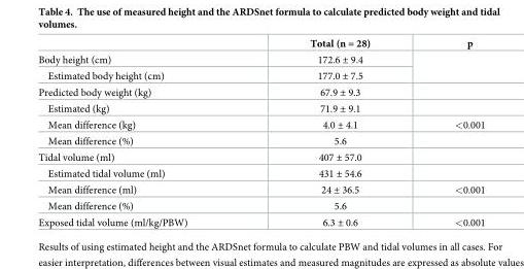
<table><thead><tr><td></td><td>Total (n = 28)</td><td>p</td></tr></thead><tbody><tr><td>Body height (cm)</td><td>172.6 ± 9.4</td><td rowspan="2"></td></tr><tr><td>Estimated body height (cm)</td><td>177.0 ± 7.5</td></tr><tr><td>Predicted body weight (kg)</td><td>67.9 ± 9.3</td><td></td></tr><tr><td>Estimated (kg)</td><td>71.9 ± 9.1</td><td></td></tr><tr><td>Mean difference (kg)</td><td>4.0 ± 4.1</td><td>&lt;0.001</td></tr><tr><td>Mean difference (%)</td><td>5.6</td><td></td></tr><tr><td>Tidal volume (ml)</td><td>407 ± 57.0</td><td></td></tr><tr><td>Estimated tidal volume (ml)</td><td>431 ± 54.6</td><td></td></tr><tr><td>Mean difference (ml)</td><td>24 ± 36.5</td><td>&lt;0.001</td></tr><tr><td>Mean difference (%)</td><td>5.6</td><td></td></tr><tr><td>Exposed tidal volume (ml/kg/PBW)</td><td>6.3 ± 0.6</td><td>&lt;0.001</td></tr></tbody></table>